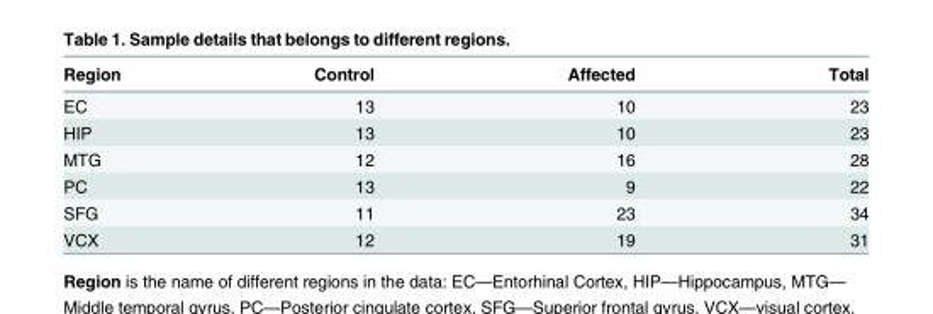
<table><thead><tr><td>Region</td><td>Control</td><td>Affected</td><td>Total</td></tr></thead><tbody><tr><td>EC</td><td>13</td><td>10</td><td>23</td></tr><tr><td>HIP</td><td>13</td><td>10</td><td>23</td></tr><tr><td>MTG</td><td>12</td><td>16</td><td>28</td></tr><tr><td>PC</td><td>13</td><td>9</td><td>22</td></tr><tr><td>SFG</td><td>11</td><td>23</td><td>34</td></tr><tr><td>VCX</td><td>12</td><td>19</td><td>31</td></tr></tbody></table>